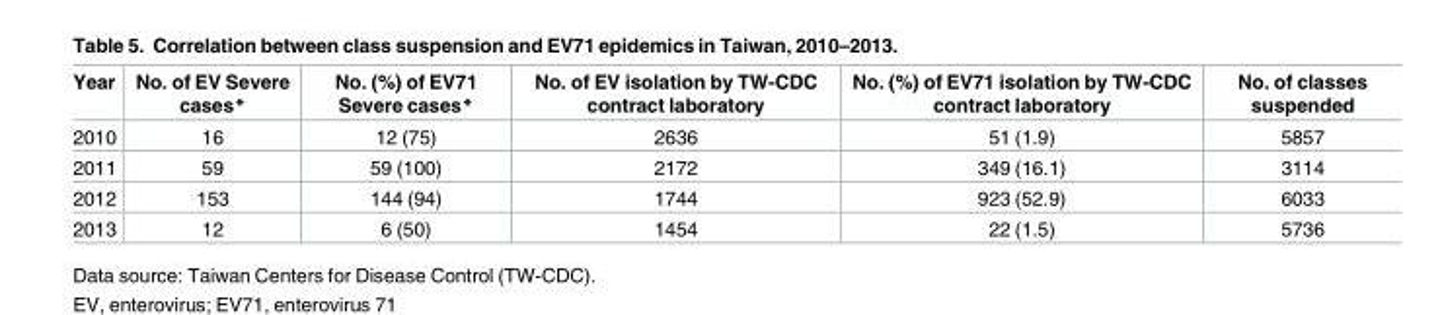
<table><thead><tr><td>Year</td><td>No. of EV Severe cases*</td><td>No. (%) of EV71 Severe cases*</td><td>No. of EV isolation by TW-CDC contract laboratory</td><td>No. (%) of EV71 isolation by TW-CDC contract laboratory</td><td>No. of classes suspended</td></tr></thead><tbody><tr><td>2010</td><td>16</td><td>12 (75)</td><td>2636</td><td>51 (1.9)</td><td>5857</td></tr><tr><td>2011</td><td>59</td><td>59 (100)</td><td>2172</td><td>349 (16.1)</td><td>3114</td></tr><tr><td>2012</td><td>153</td><td>144 (94)</td><td>1744</td><td>923 (52.9)</td><td>6033</td></tr><tr><td>2013</td><td>12</td><td>6 (50)</td><td>1454</td><td>22 (1.5)</td><td>5736</td></tr></tbody></table>